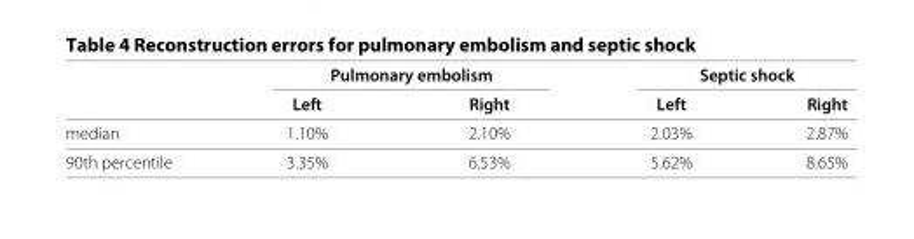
<table><thead><tr><td rowspan="2"></td><td colspan="2">Pulmonary embolism</td><td colspan="2">Septic shock</td></tr><tr><td>Left</td><td>Right</td><td>Left</td><td>Right</td></tr></thead><tbody><tr><td>median</td><td>1.10%</td><td>2.10%</td><td>2.03%</td><td>2.87%</td></tr><tr><td>90th percentile</td><td>3.35%</td><td>6.53%</td><td>5.62%</td><td>8.65%</td></tr></tbody></table>